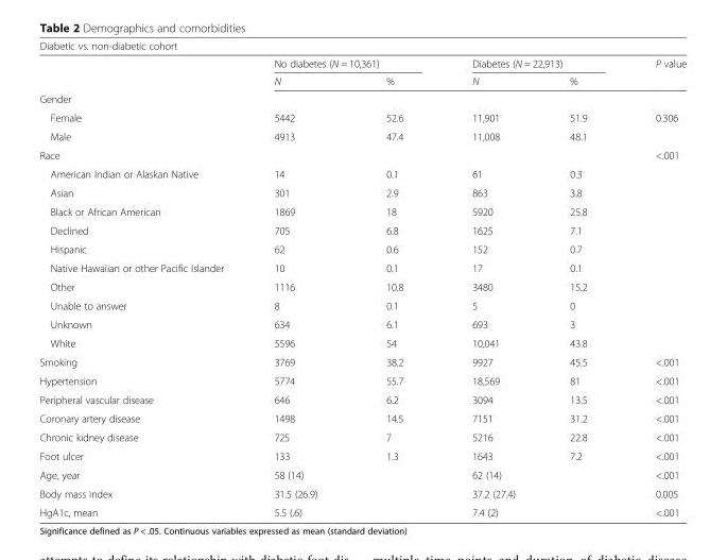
<table><thead><tr><td colspan="6">Diabetic vs. non-diabetic cohort</td></tr><tr><td rowspan="2"></td><td colspan="2">No diabetes (N = 10,361)</td><td colspan="2">Diabetes (N = 22,913)</td><td rowspan="2">P value</td></tr><tr><td>N</td><td>%</td><td>N</td><td>%</td></tr></thead><tbody><tr><td colspan="6">Gender</td></tr><tr><td>Female</td><td>5442</td><td>52.6</td><td>11,901</td><td>51.9</td><td>0.306</td></tr><tr><td>Male</td><td>4913</td><td>47.4</td><td>11,008</td><td>48.1</td><td></td></tr><tr><td>Race</td><td></td><td></td><td></td><td></td><td>&lt;.001</td></tr><tr><td>American Indian or Alaskan Native</td><td>14</td><td>0.1</td><td>61</td><td>0.3</td><td></td></tr><tr><td>Asian</td><td>301</td><td>2.9</td><td>863</td><td>3.8</td><td></td></tr><tr><td>Black or African American</td><td>1869</td><td>18</td><td>5920</td><td>25.8</td><td></td></tr><tr><td>Declined</td><td>705</td><td>6.8</td><td>1625</td><td>7.1</td><td></td></tr><tr><td>Hispanic</td><td>62</td><td>0.6</td><td>152</td><td>0.7</td><td></td></tr><tr><td>Native Hawaiian or other Pacific Islander</td><td>10</td><td>0.1</td><td>17</td><td>0.1</td><td></td></tr><tr><td>Other</td><td>1116</td><td>10.8</td><td>3480</td><td>15.2</td><td></td></tr><tr><td>Unable to answer</td><td>8</td><td>0.1</td><td>5</td><td>0</td><td></td></tr><tr><td>Unknown</td><td>634</td><td>6.1</td><td>693</td><td>3</td><td></td></tr><tr><td>White</td><td>5596</td><td>54</td><td>10,041</td><td>43.8</td><td></td></tr><tr><td>Smoking</td><td>3769</td><td>38.2</td><td>9927</td><td>45.5</td><td>&lt;.001</td></tr><tr><td>Hypertension</td><td>5774</td><td>55.7</td><td>18,569</td><td>81</td><td>&lt;.001</td></tr><tr><td>Peripheral vascular disease</td><td>646</td><td>6.2</td><td>3094</td><td>13.5</td><td>&lt;.001</td></tr><tr><td>Coronary artery disease</td><td>1498</td><td>14.5</td><td>7151</td><td>31.2</td><td>&lt;.001</td></tr><tr><td>Chronic kidney disease</td><td>725</td><td>7</td><td>5216</td><td>22.8</td><td>&lt;.001</td></tr><tr><td>Foot ulcer</td><td>133</td><td>1.3</td><td>1643</td><td>7.2</td><td>&lt;.001</td></tr><tr><td>Age, year</td><td>58 (14)</td><td></td><td>62 (14)</td><td></td><td>&lt;.001</td></tr><tr><td>Body mass index</td><td>31.5 (26.9)</td><td></td><td colspan="2">37.2 (27.4)</td><td>0.005</td></tr><tr><td>HgA1c, mean</td><td>5.5 (.6)</td><td></td><td>7.4 (2)</td><td></td><td>&lt;.001</td></tr></tbody></table>